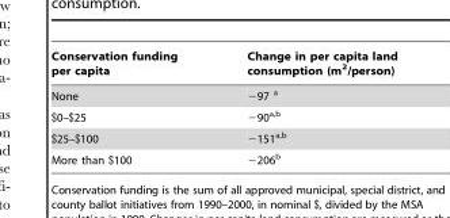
<table><thead><tr><td>Conservation funding per capita</td><td>Change in per capita land consumption (m<sup>2</sup>/person)</td></tr></thead><tbody><tr><td>None</td><td>−97 <sup>a</sup></td></tr><tr><td>$0–$25</td><td>−90<sup>a,b</sup></td></tr><tr><td>$25–$100</td><td>−151<sup>a,b</sup></td></tr><tr><td>More than $100</td><td>−206<sup>b</sup></td></tr></tbody></table>